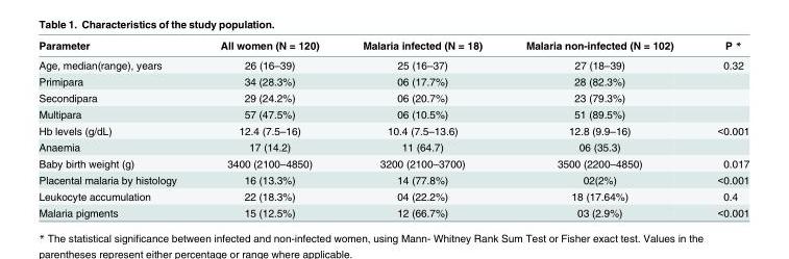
<table><thead><tr><td>Parameter</td><td>All women (N = 120)</td><td>Malaria infected (N = 18)</td><td>Malaria non-infected (N = 102)</td><td>P *</td></tr></thead><tbody><tr><td>Age, median(range), years</td><td>26 (16–39)</td><td>25 (16–37)</td><td>27 (18–39)</td><td>0.32</td></tr><tr><td>Primipara</td><td>34 (28.3%)</td><td>06 (17.7%)</td><td>28 (82.3%)</td><td></td></tr><tr><td>Secondipara</td><td>29 (24.2%)</td><td>06 (20.7%)</td><td>23 (79.3%)</td><td></td></tr><tr><td>Multipara</td><td>57 (47.5%)</td><td>06 (10.5%)</td><td>51 (89.5%)</td><td></td></tr><tr><td>Hb levels (g/dL)</td><td>12.4 (7.5–16)</td><td>10.4 (7.5–13.6)</td><td>12.8 (9.9–16)</td><td>&lt;0.001</td></tr><tr><td>Anaemia</td><td>17 (14.2)</td><td>11 (64.7)</td><td>06 (35.3)</td><td></td></tr><tr><td>Baby birth weight (g)</td><td>3400 (2100–4850)</td><td>3200 (2100–3700)</td><td>3500 (2200–4850)</td><td>0.017</td></tr><tr><td>Placental malaria by histology</td><td>16 (13.3%)</td><td>14 (77.8%)</td><td>02(2%)</td><td>&lt;0.001</td></tr><tr><td>Leukocyte accumulation</td><td>22 (18.3%)</td><td>04 (22.2%)</td><td>18 (17.64%)</td><td>0.4</td></tr><tr><td>Malaria pigments</td><td>15 (12.5%)</td><td>12 (66.7%)</td><td>03 (2.9%)</td><td>&lt;0.001</td></tr></tbody></table>